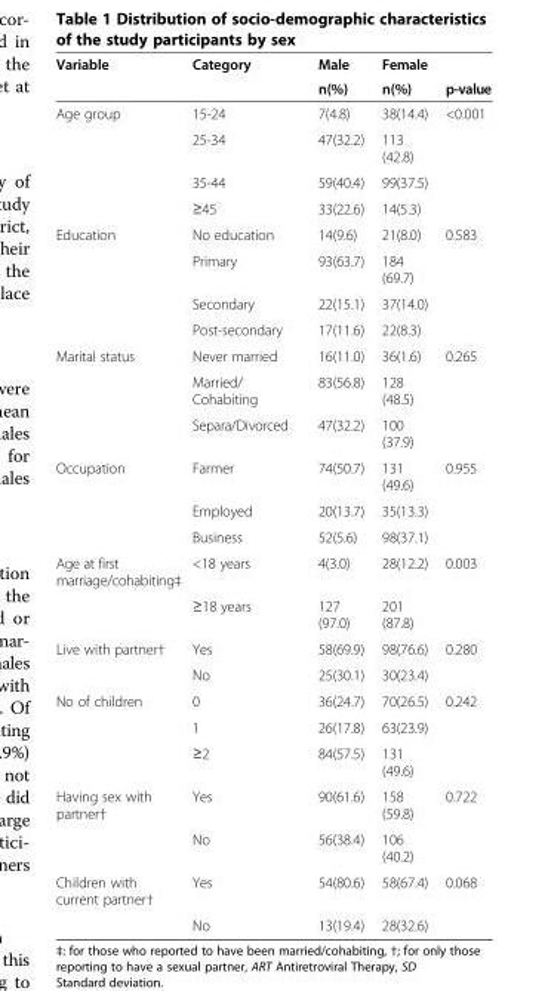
<table><thead><tr><td rowspan="2">Variable</td><td rowspan="2">Category</td><td rowspan="2">Male n(%)</td><td rowspan="2">Female n(%)</td><td rowspan="2">p-value</td></tr><tr></tr></thead><tbody><tr><td rowspan="4">Age group</td><td>15-24</td><td>7(4.8)</td><td>38(14.4)</td><td>&lt;0.001</td></tr><tr><td>25-34</td><td>47(32.2)</td><td>113 (42.8)</td><td></td></tr><tr><td>35-44</td><td>59(40.4)</td><td>99(37.5)</td><td></td></tr><tr><td>≥45</td><td>33(22.6)</td><td>14(5.3)</td><td></td></tr><tr><td rowspan="4">Education</td><td>No education</td><td>14(9.6)</td><td>21(8.0)</td><td>0.583</td></tr><tr><td>Primary</td><td>93(63.7)</td><td>184 (69.7)</td><td></td></tr><tr><td>Secondary</td><td>22(15.1)</td><td>37(14.0)</td><td></td></tr><tr><td>Post-secondary</td><td>17(11.6)</td><td>22(8.3)</td><td></td></tr><tr><td rowspan="3">Marital status</td><td>Never married</td><td>16(11.0)</td><td>36(1.6)</td><td>0.265</td></tr><tr><td>Married/ Cohabiting</td><td>83(56.8)</td><td>128 (48.5)</td><td></td></tr><tr><td>Separa/Divorced</td><td>47(32.2)</td><td>100 (37.9)</td><td></td></tr><tr><td rowspan="3">Occupation</td><td>Farmer</td><td>74(50.7)</td><td>131 (49.6)</td><td>0.955</td></tr><tr><td>Employed</td><td>20(13.7)</td><td>35(13.3)</td><td></td></tr><tr><td>Business</td><td>52(5.6)</td><td>98(37.1)</td><td></td></tr><tr><td rowspan="2">Age at first marriage/cohabiting‡</td><td>&lt;18 years</td><td>4(3.0)</td><td>28(12.2)</td><td>0.003</td></tr><tr><td>≥18 years</td><td>127 (97.0)</td><td>201 (87.8)</td><td></td></tr><tr><td rowspan="2">Live with partner†</td><td>Yes</td><td>58(69.9)</td><td>98(76.6)</td><td>0.280</td></tr><tr><td>No</td><td>25(30.1)</td><td>30(23.4)</td><td></td></tr><tr><td rowspan="3">No of children</td><td>0</td><td>36(24.7)</td><td>70(26.5)</td><td>0.242</td></tr><tr><td>1</td><td>26(17.8)</td><td>63(23.9)</td><td></td></tr><tr><td>≥2</td><td>84(57.5)</td><td>131 (49.6)</td><td></td></tr><tr><td rowspan="2">Having sex with partner†</td><td>Yes</td><td>90(61.6)</td><td>158 (59.8)</td><td>0.722</td></tr><tr><td>No</td><td>56(38.4)</td><td>106 (40.2)</td><td></td></tr><tr><td rowspan="2">Children with current partner†</td><td>Yes</td><td>54(80.6)</td><td>58(67.4)</td><td>0.068</td></tr><tr><td>No</td><td>13(19.4)</td><td>28(32.6)</td><td></td></tr></tbody></table>